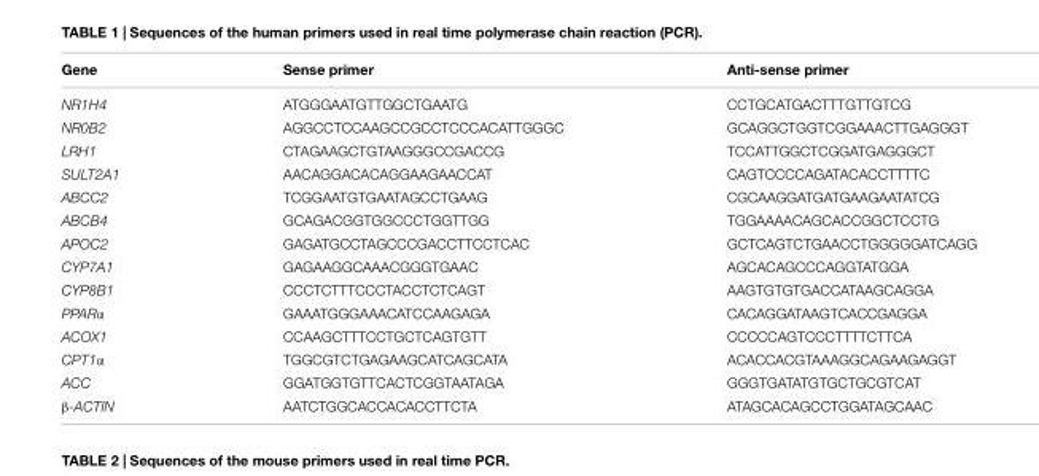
<table><thead><tr><td>Gene</td><td>Sense primer</td><td>Anti-sense primer</td></tr></thead><tbody><tr><td>NR1H4</td><td>ATGGGAATGTTGGCTGAATG</td><td>CCTGCATGACTTTGTTGTCG</td></tr><tr><td>NR0B2</td><td>AGGCCTCCAAGCCGCCTCCCACATTGGGC</td><td>GCAGGCTGGTCGGAAACTTGAGGGT</td></tr><tr><td>LRH1</td><td>CTAGAAGCTGTAAGGGCCGACCG</td><td>TCCATTGGCTCGGATGAGGGCT</td></tr><tr><td>SULT2A1</td><td>AACAGGACACAGGAAGAACCAT</td><td>CAGTCCCCAGATACACCTTTTC</td></tr><tr><td>ABCC2</td><td>TCGGAATGTGAATAGCCTGAAG</td><td>CGCAAGGATGATGAAGAATATCG</td></tr><tr><td>ABCB4</td><td>GCAGACGGTGGCCCTGGTTGG</td><td>TGGAAAACAGCACCGGCTCCTG</td></tr><tr><td>APOC2</td><td>GAGATGCCTAGCCCGACCTTCCTCAC</td><td>GCTCAGTCTGAACCTGGGGGATCAGG</td></tr><tr><td>CYP7A1</td><td>GAGAAGGCAAACGGGTGAAC</td><td>AGCACAGCCCAGGTATGGA</td></tr><tr><td>CYP8B1</td><td>CCCTCTTTCCCTACCTCTCAGT</td><td>AAGTGTGTGACCATAAGCAGGA</td></tr><tr><td>PPARα</td><td>GAAATGGGAAACATCCAAGAGA</td><td>CACAGGATAAGTCACCGAGGA</td></tr><tr><td>ACOX1</td><td>CCAAGCTTTCCTGCTCAGTGTT</td><td>CCCCCAGTCCCTTTTCTTCA</td></tr><tr><td>CPT1α</td><td>TGGCGTCTGAGAAGCATCAGCATA</td><td>ACACCACGTAAAGGCAGAAGAGGT</td></tr><tr><td>ACC</td><td>GGATGGTGTTCACTCGGTAATAGA</td><td>GGGTGATATGTGCTGCGTCAT</td></tr><tr><td>β-ACTIN</td><td>AATCTGGCACCACACCTTCTA</td><td>ATAGCACAGCCTGGATAGCAAC</td></tr></tbody></table>